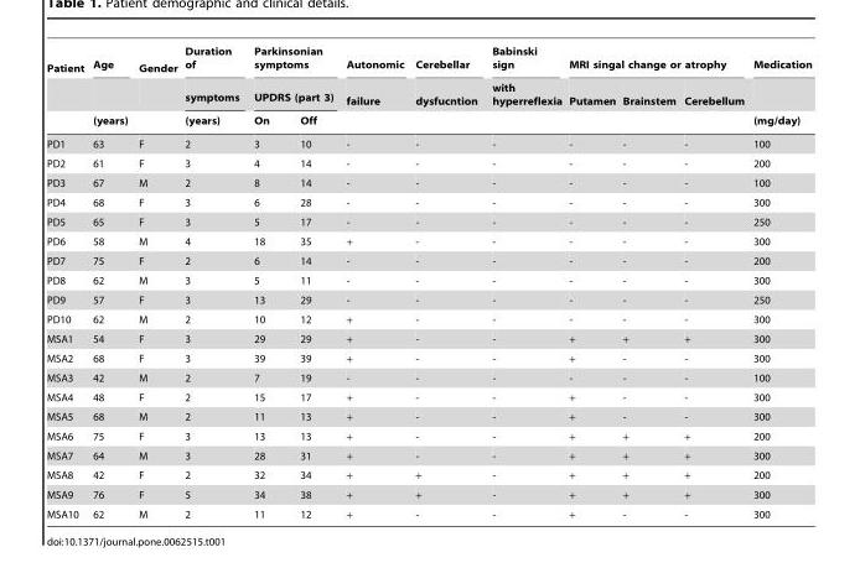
<table><thead><tr><td rowspan="3">Patient</td><td rowspan="3">Age (years)</td><td rowspan="3">Gender</td><td rowspan="3">Duration of symptoms (years)</td><td rowspan="2" colspan="2">Parkinsonian symptoms UPDRS (part 3)</td><td rowspan="3">Autonomic failure</td><td rowspan="3">Cerebellar dysfucntion</td><td rowspan="3">Babinski sign with hyperreflexia</td><td colspan="3">MRI singal change or atrophy</td><td rowspan="3">Medication (mg/day)</td></tr><tr><td rowspan="2">Putamen</td><td rowspan="2">Brainstem</td><td rowspan="2">Cerebellum</td></tr><tr><td>On</td><td>Off</td></tr></thead><tbody><tr><td>PD1</td><td>63</td><td>F</td><td>2</td><td>3</td><td>10</td><td>-</td><td>-</td><td>-</td><td>-</td><td>-</td><td>-</td><td>100</td></tr><tr><td>PD2</td><td>61</td><td>F</td><td>3</td><td>4</td><td>14</td><td>-</td><td>-</td><td>-</td><td>-</td><td>-</td><td>-</td><td>200</td></tr><tr><td>PD3</td><td>67</td><td>M</td><td>2</td><td>8</td><td>14</td><td>-</td><td>-</td><td>-</td><td>-</td><td>-</td><td>-</td><td>100</td></tr><tr><td>PD4</td><td>68</td><td>F</td><td>3</td><td>6</td><td>28</td><td>-</td><td>-</td><td>-</td><td>-</td><td>-</td><td>-</td><td>300</td></tr><tr><td>PD5</td><td>65</td><td>F</td><td>3</td><td>5</td><td>17</td><td>-</td><td>-</td><td>-</td><td>-</td><td>-</td><td>-</td><td>250</td></tr><tr><td>PD6</td><td>58</td><td>M</td><td>4</td><td>18</td><td>35</td><td>+</td><td>-</td><td>-</td><td>-</td><td>-</td><td>-</td><td>300</td></tr><tr><td>PD7</td><td>75</td><td>F</td><td>2</td><td>6</td><td>14</td><td>-</td><td>-</td><td>-</td><td>-</td><td>-</td><td>-</td><td>200</td></tr><tr><td>PD8</td><td>62</td><td>M</td><td>3</td><td>5</td><td>11</td><td>-</td><td>-</td><td>-</td><td>-</td><td>-</td><td>-</td><td>300</td></tr><tr><td>PD9</td><td>57</td><td>F</td><td>3</td><td>13</td><td>29</td><td>-</td><td>-</td><td>-</td><td>-</td><td>-</td><td>-</td><td>250</td></tr><tr><td>PD10</td><td>62</td><td>M</td><td>2</td><td>10</td><td>12</td><td>+</td><td>-</td><td>-</td><td>-</td><td>-</td><td>-</td><td>300</td></tr><tr><td>MSA1</td><td>54</td><td>F</td><td>3</td><td>29</td><td>29</td><td>+</td><td>-</td><td>-</td><td>+</td><td>+</td><td>+</td><td>300</td></tr><tr><td>MSA2</td><td>68</td><td>F</td><td>3</td><td>39</td><td>39</td><td>+</td><td>-</td><td>-</td><td>+</td><td>-</td><td>-</td><td>300</td></tr><tr><td>MSA3</td><td>42</td><td>M</td><td>2</td><td>7</td><td>19</td><td>-</td><td>-</td><td>-</td><td>-</td><td>-</td><td>-</td><td>100</td></tr><tr><td>MSA4</td><td>48</td><td>F</td><td>2</td><td>15</td><td>17</td><td>+</td><td>-</td><td>-</td><td>+</td><td>-</td><td>-</td><td>300</td></tr><tr><td>MSA5</td><td>68</td><td>M</td><td>2</td><td>11</td><td>13</td><td>+</td><td>-</td><td>-</td><td>+</td><td>-</td><td>-</td><td>300</td></tr><tr><td>MSA6</td><td>75</td><td>F</td><td>3</td><td>13</td><td>13</td><td>+</td><td>-</td><td>-</td><td>+</td><td>+</td><td>+</td><td>200</td></tr><tr><td>MSA7</td><td>64</td><td>M</td><td>3</td><td>28</td><td>31</td><td>+</td><td>-</td><td>-</td><td>+</td><td>+</td><td>+</td><td>300</td></tr><tr><td>MSA8</td><td>42</td><td>F</td><td>2</td><td>32</td><td>34</td><td>+</td><td>+</td><td>-</td><td>+</td><td>+</td><td>+</td><td>200</td></tr><tr><td>MSA9</td><td>76</td><td>F</td><td>5</td><td>34</td><td>38</td><td>+</td><td>+</td><td>-</td><td>+</td><td>+</td><td>+</td><td>300</td></tr><tr><td>MSA10</td><td>62</td><td>M</td><td>2</td><td>11</td><td>12</td><td>+</td><td>-</td><td>-</td><td>+</td><td>-</td><td>-</td><td>300</td></tr></tbody></table>